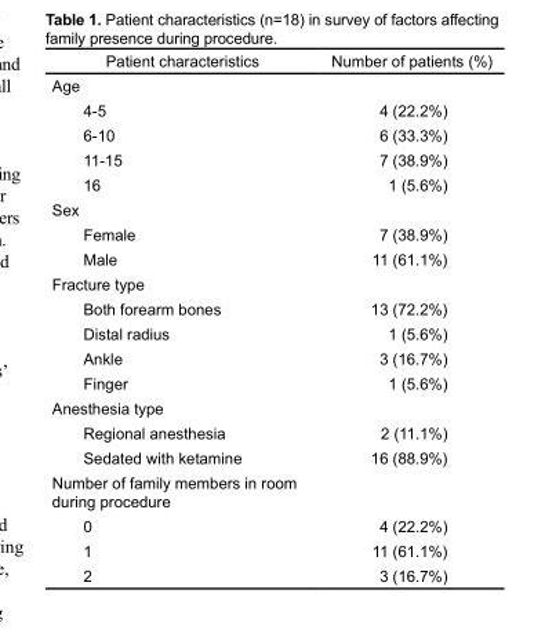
<table><thead><tr><td>Patient characteristics</td><td>Number of patients (%)</td></tr></thead><tbody><tr><td colspan="2">Age</td></tr><tr><td>4-5</td><td>4 (22.2%)</td></tr><tr><td>6-10</td><td>6 (33.3%)</td></tr><tr><td>11-15</td><td>7 (38.9%)</td></tr><tr><td>16</td><td>1 (5.6%)</td></tr><tr><td colspan="2">Sex</td></tr><tr><td>Female</td><td>7 (38.9%)</td></tr><tr><td>Male</td><td>11 (61.1%)</td></tr><tr><td colspan="2">Fracture type</td></tr><tr><td>Both forearm bones</td><td>13 (72.2%)</td></tr><tr><td>Distal radius</td><td>1 (5.6%)</td></tr><tr><td>Ankle</td><td>3 (16.7%)</td></tr><tr><td>Finger</td><td>1 (5.6%)</td></tr><tr><td colspan="2">Anesthesia type</td></tr><tr><td>Regional anesthesia</td><td>2 (11.1%)</td></tr><tr><td>Sedated with ketamine</td><td>16 (88.9%)</td></tr><tr><td colspan="2">Number of family members in room during procedure</td></tr><tr><td>0</td><td>4 (22.2%)</td></tr><tr><td>1</td><td>11 (61.1%)</td></tr><tr><td>2</td><td>3 (16.7%)</td></tr></tbody></table>